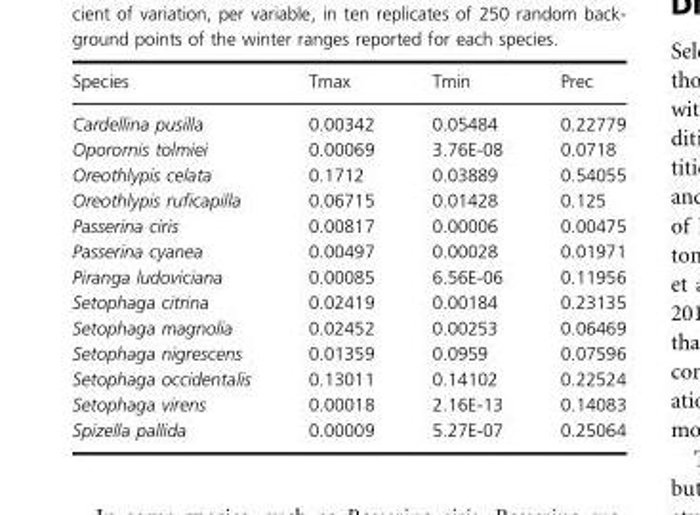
<table><thead><tr><td>Species</td><td>Tmax</td><td>Tmin</td><td>Prec</td></tr></thead><tbody><tr><td>Cardellina pusilla</td><td>0.00342</td><td>0.05484</td><td>0.22779</td></tr><tr><td>Oporornis tolmiei</td><td>0.00069</td><td>3.76E-08</td><td>0.0718</td></tr><tr><td>Oreothlypis celata</td><td>0.1712</td><td>0.03889</td><td>0.54055</td></tr><tr><td>Oreothlypis ruficapilla</td><td>0.06715</td><td>0.01428</td><td>0.125</td></tr><tr><td>Passerina ciris</td><td>0.00817</td><td>0.00006</td><td>0.00475</td></tr><tr><td>Passerina cyanea</td><td>0.00497</td><td>0.00028</td><td>0.01971</td></tr><tr><td>Piranga ludoviciana</td><td>0.00085</td><td>6.56E-06</td><td>0.11956</td></tr><tr><td>Setophaga citrina</td><td>0.02419</td><td>0.00184</td><td>0.23135</td></tr><tr><td>Setophaga magnolia</td><td>0.02452</td><td>0.00253</td><td>0.06469</td></tr><tr><td>Setophaga nigrescens</td><td>0.01359</td><td>0.0959</td><td>0.07596</td></tr><tr><td>Setophaga occidentalis</td><td>0.13011</td><td>0.14102</td><td>0.22524</td></tr><tr><td>Setophaga virens</td><td>0.00018</td><td>2.16E-13</td><td>0.14083</td></tr><tr><td>Spizella pallida</td><td>0.00009</td><td>5.27E-07</td><td>0.25064</td></tr></tbody></table>